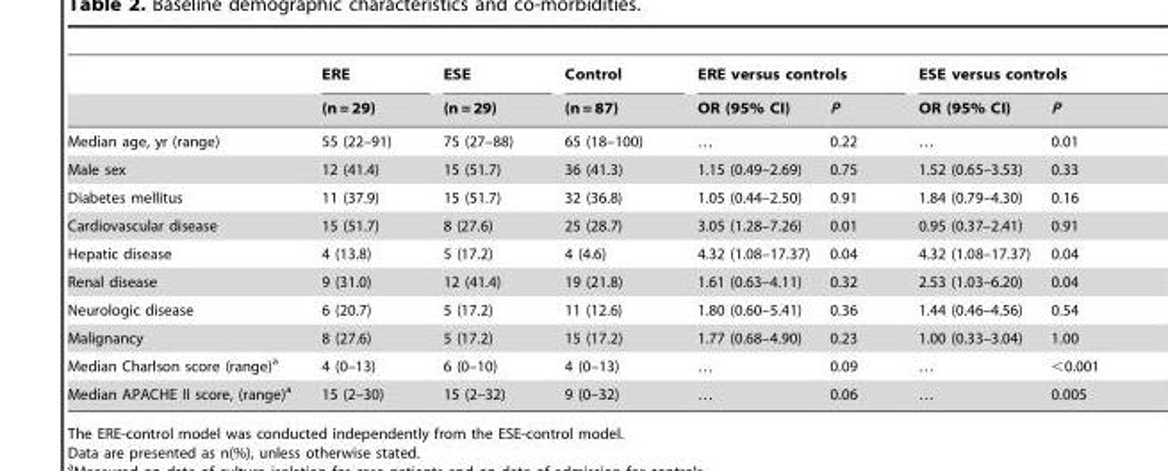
<table><thead><tr><td rowspan="2"></td><td rowspan="2">ERE (n = 29)</td><td rowspan="2">ESE (n = 29)</td><td rowspan="2">Control (n = 87)</td><td colspan="2">ERE versus controls</td><td colspan="2">ESE versus controls</td></tr><tr><td>OR (95% CI)</td><td>P</td><td>OR (95% CI)</td><td>P</td></tr></thead><tbody><tr><td>Median age, yr (range)</td><td>55 (22–91)</td><td>75 (27–88)</td><td>65 (18–100)</td><td>…</td><td>0.22</td><td>…</td><td>0.01</td></tr><tr><td>Male sex</td><td>12 (41.4)</td><td>15 (51.7)</td><td>36 (41.3)</td><td>1.15 (0.49–2.69)</td><td>0.75</td><td>1.52 (0.65–3.53)</td><td>0.33</td></tr><tr><td>Diabetes mellitus</td><td>11 (37.9)</td><td>15 (51.7)</td><td>32 (36.8)</td><td>1.05 (0.44–2.50)</td><td>0.91</td><td>1.84 (0.79–4.30)</td><td>0.16</td></tr><tr><td>Cardiovascular disease</td><td>15 (51.7)</td><td>8 (27.6)</td><td>25 (28.7)</td><td>3.05 (1.28–7.26)</td><td>0.01</td><td>0.95 (0.37–2.41)</td><td>0.91</td></tr><tr><td>Hepatic disease</td><td>4 (13.8)</td><td>5 (17.2)</td><td>4 (4.6)</td><td>4.32 (1.08–17.37)</td><td>0.04</td><td>4.32 (1.08–17.37)</td><td>0.04</td></tr><tr><td>Renal disease</td><td>9 (31.0)</td><td>12 (41.4)</td><td>19 (21.8)</td><td>1.61 (0.63–4.11)</td><td>0.32</td><td>2.53 (1.03–6.20)</td><td>0.04</td></tr><tr><td>Neurologic disease</td><td>6 (20.7)</td><td>5 (17.2)</td><td>11 (12.6)</td><td>1.80 (0.60–5.41)</td><td>0.36</td><td>1.44 (0.46–4.56)</td><td>0.54</td></tr><tr><td>Malignancy</td><td>8 (27.6)</td><td>5 (17.2)</td><td>15 (17.2)</td><td>1.77 (0.68–4.90)</td><td>0.23</td><td>1.00 (0.33–3.04)</td><td>1.00</td></tr><tr><td>Median Charlson score (range)<sup>a</sup></td><td>4 (0–13)</td><td>6 (0–10)</td><td>4 (0–13)</td><td>…</td><td>0.09</td><td>…</td><td>&lt;0.001</td></tr><tr><td>Median APACHE II score, (range)<sup>a</sup></td><td>15 (2–30)</td><td>15 (2–32)</td><td>9 (0–32)</td><td>…</td><td>0.06</td><td>…</td><td>0.005</td></tr></tbody></table>